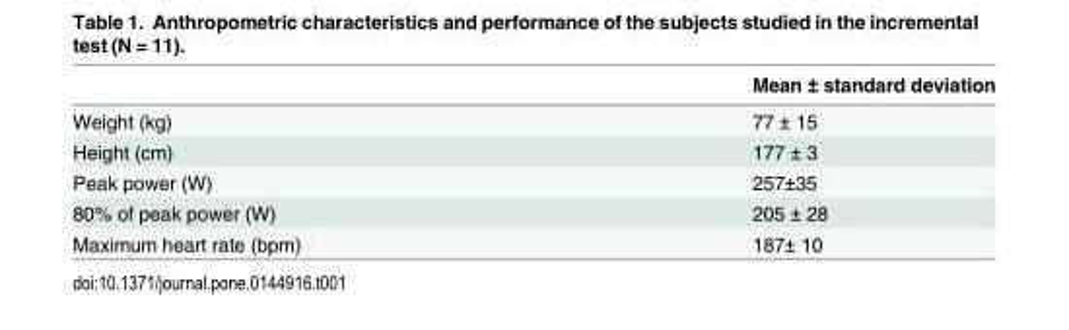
<table><thead><tr><td></td><td>Mean ± standard deviation</td></tr></thead><tbody><tr><td>Weight (kg)</td><td>77 ± 15</td></tr><tr><td>Height (cm)</td><td>177 ± 3</td></tr><tr><td>Peak power (W)</td><td>257±35</td></tr><tr><td>80% of peak power (W)</td><td>205 ± 28</td></tr><tr><td>Maximum heart rate (bpm)</td><td>187± 10</td></tr></tbody></table>